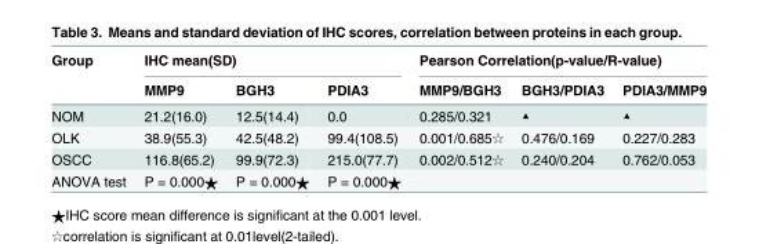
<table><thead><tr><td rowspan="2">Group</td><td colspan="3">IHC mean(SD)</td><td colspan="3">Pearson Correlation(p-value/R-value)</td></tr><tr><td>MMP9</td><td>BGH3</td><td>PDIA3</td><td>MMP9/BGH3</td><td>BGH3/PDIA3</td><td>PDIA3/MMP9</td></tr></thead><tbody><tr><td>NOM</td><td>21.2(16.0)</td><td>12.5(14.4)</td><td>0.0</td><td>0.285/0.321</td><td>▲</td><td>▲</td></tr><tr><td>OLK</td><td>38.9(55.3)</td><td>42.5(48.2)</td><td>99.4(108.5)</td><td>0.001/0.685☆</td><td>0.476/0.169</td><td>0.227/0.283</td></tr><tr><td>OSCC</td><td>116.8(65.2)</td><td>99.9(72.3)</td><td>215.0(77.7)</td><td>0.002/0.512☆</td><td>0.240/0.204</td><td>0.762/0.053</td></tr><tr><td>ANOVA test</td><td>P = 0.000★</td><td>P = 0.000★</td><td>P = 0.000★</td><td></td><td></td><td></td></tr></tbody></table>